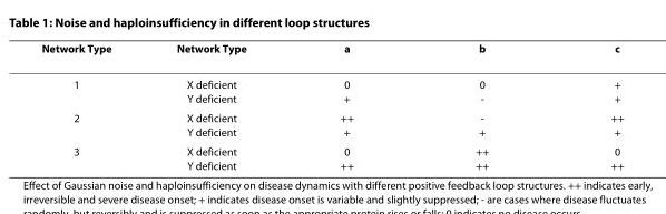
<table><thead><tr><td>Network Type</td><td>Network Type</td><td>a</td><td>b</td><td>c</td></tr></thead><tbody><tr><td>1</td><td>X deficient Y deficient</td><td>0 +</td><td>0 -</td><td>+ +</td></tr><tr><td>2</td><td>X deficient Y deficient</td><td>++ +</td><td>- +</td><td>++ +</td></tr><tr><td>3</td><td>X deficient Y deficient</td><td>0 ++</td><td>++ ++</td><td>0 ++</td></tr></tbody></table>